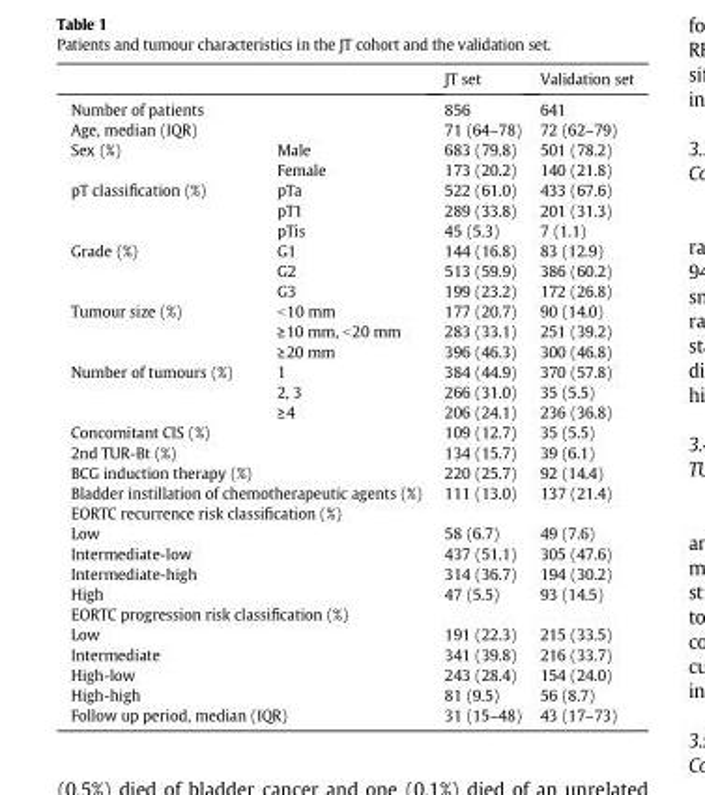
<table><thead><tr><td></td><td></td><td>JT set</td><td>Validation set</td></tr></thead><tbody><tr><td colspan="2">Number of patients</td><td>856</td><td>641</td></tr><tr><td colspan="2">Age, median (IQR)</td><td>71 (64–78)</td><td>72 (62–79)</td></tr><tr><td rowspan="2">Sex (%)</td><td>Male</td><td>683 (79.8)</td><td>501 (78.2)</td></tr><tr><td>Female</td><td>173 (20.2)</td><td>140 (21.8)</td></tr><tr><td rowspan="3">pT classification (%)</td><td>pTa</td><td>522 (61.0)</td><td>433 (67.6)</td></tr><tr><td>pT1</td><td>289 (33.8)</td><td>201 (31.3)</td></tr><tr><td>pTis</td><td>45 (5.3)</td><td>7 (1.1)</td></tr><tr><td rowspan="3">Grade (%)</td><td>G1</td><td>144 (16.8)</td><td>83 (12.9)</td></tr><tr><td>G2</td><td>513 (59.9)</td><td>386 (60.2)</td></tr><tr><td>G3</td><td>199 (23.2)</td><td>172 (26.8)</td></tr><tr><td rowspan="3">Tumour size (%)</td><td>&lt;10 mm</td><td>177 (20.7)</td><td>90 (14.0)</td></tr><tr><td>≥10 mm, &lt;20 mm</td><td>283 (33.1)</td><td>251 (39.2)</td></tr><tr><td>≥20 mm</td><td>396 (46.3)</td><td>300 (46.8)</td></tr><tr><td rowspan="3">Number of tumours (%)</td><td>1</td><td>384 (44.9)</td><td>370 (57.8)</td></tr><tr><td>2, 3</td><td>266 (31.0)</td><td>35 (5.5)</td></tr><tr><td>≥4</td><td>206 (24.1)</td><td>236 (36.8)</td></tr><tr><td colspan="2">Concomitant CIS (%)</td><td>109 (12.7)</td><td>35 (5.5)</td></tr><tr><td colspan="2">2nd TUR-Bt (%)</td><td>134 (15.7)</td><td>39 (6.1)</td></tr><tr><td colspan="2">BCG induction therapy (%)</td><td>220 (25.7)</td><td>92 (14.4)</td></tr><tr><td colspan="2">Bladder instillation of chemotherapeutic agents (%)</td><td>111 (13.0)</td><td>137 (21.4)</td></tr><tr><td colspan="4">EORTC recurrence risk classification (%)</td></tr><tr><td colspan="2">Low</td><td>58 (6.7)</td><td>49 (7.6)</td></tr><tr><td colspan="2">Intermediate-low</td><td>437 (51.1)</td><td>305 (47.6)</td></tr><tr><td colspan="2">Intermediate-high</td><td>314 (36.7)</td><td>194 (30.2)</td></tr><tr><td colspan="2">High</td><td>47 (5.5)</td><td>93 (14.5)</td></tr><tr><td colspan="4">EORTC progression risk classification (%)</td></tr><tr><td colspan="2">Low</td><td>191 (22.3)</td><td>215 (33.5)</td></tr><tr><td colspan="2">Intermediate</td><td>341 (39.8)</td><td>216 (33.7)</td></tr><tr><td colspan="2">High-low</td><td>243 (28.4)</td><td>154 (24.0)</td></tr><tr><td colspan="2">High-high</td><td>81 (9.5)</td><td>56 (8.7)</td></tr><tr><td colspan="2">Follow up period, median (IQR)</td><td>31 (15–48)</td><td>43 (17–73)</td></tr></tbody></table>